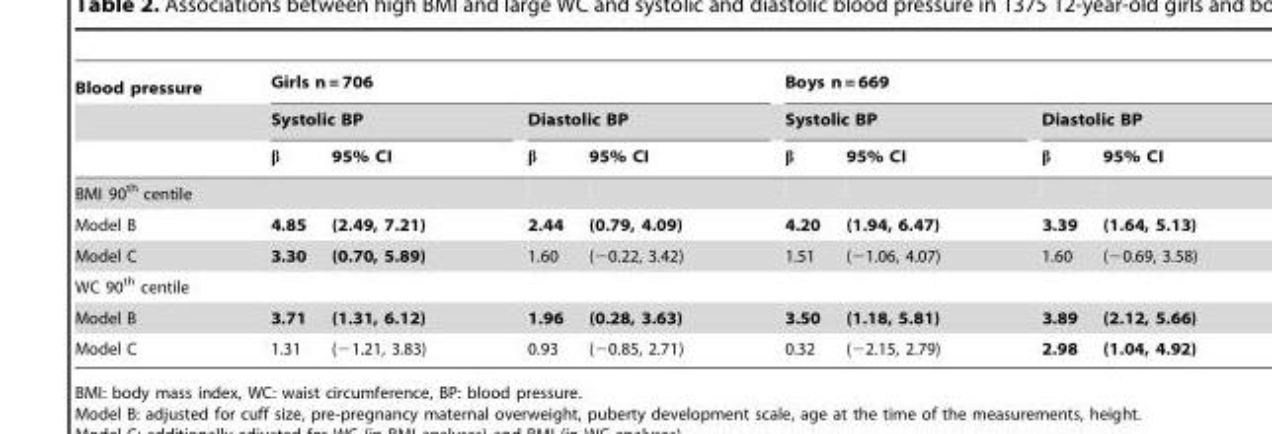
<table><thead><tr><td rowspan="3">Blood pressure</td><td colspan="4">Girls n = 706</td><td colspan="4">Boys n = 669</td></tr><tr><td colspan="2">Systolic BP</td><td colspan="2">Diastolic BP</td><td colspan="2">Systolic BP</td><td colspan="2">Diastolic BP</td></tr><tr><td>β</td><td>95% CI</td><td>β</td><td>95% CI</td><td>β</td><td>95% CI</td><td>β</td><td>95% CI</td></tr></thead><tbody><tr><td colspan="9">BMI 90<sup>th</sup> centile</td></tr><tr><td>Model B</td><td>4.85</td><td>(2.49, 7.21)</td><td>2.44</td><td>(0.79, 4.09)</td><td>4.20</td><td>(1.94, 6.47)</td><td>3.39</td><td>(1.64, 5.13)</td></tr><tr><td>Model C</td><td>3.30</td><td>(0.70, 5.89)</td><td>1.60</td><td>(−0.22, 3.42)</td><td>1.51</td><td>(−1.06, 4.07)</td><td>1.60</td><td>(−0.69, 3.58)</td></tr><tr><td colspan="9">WC 90<sup>th</sup> centile</td></tr><tr><td>Model B</td><td>3.71</td><td>(1.31, 6.12)</td><td>1.96</td><td>(0.28, 3.63)</td><td>3.50</td><td>(1.18, 5.81)</td><td>3.89</td><td>(2.12, 5.66)</td></tr><tr><td>Model C</td><td>1.31</td><td>(−1.21, 3.83)</td><td>0.93</td><td>(−0.85, 2.71)</td><td>0.32</td><td>(−2.15, 2.79)</td><td>2.98</td><td>(1.04, 4.92)</td></tr></tbody></table>